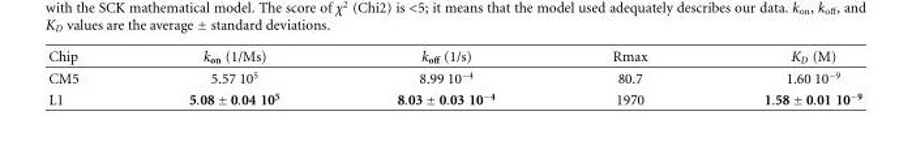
<table><thead><tr><td>Chip</td><td>k<sub>on</sub> (1/Ms)</td><td>k<sub>off</sub> (1/s)</td><td>Rmax</td><td>K<sub>D</sub> (M)</td></tr></thead><tbody><tr><td>CM5</td><td>5.57 10<sup>5</sup></td><td>8.99 10<sup>−4</sup></td><td>80.7</td><td>1.60 10<sup>−9</sup></td></tr><tr><td>L1</td><td>5.08 ± 0.04 10<sup>5</sup></td><td>8.03 ± 0.03 10<sup>−4</sup></td><td>1970</td><td>1.58 ± 0.01 10<sup>−9</sup></td></tr></tbody></table>